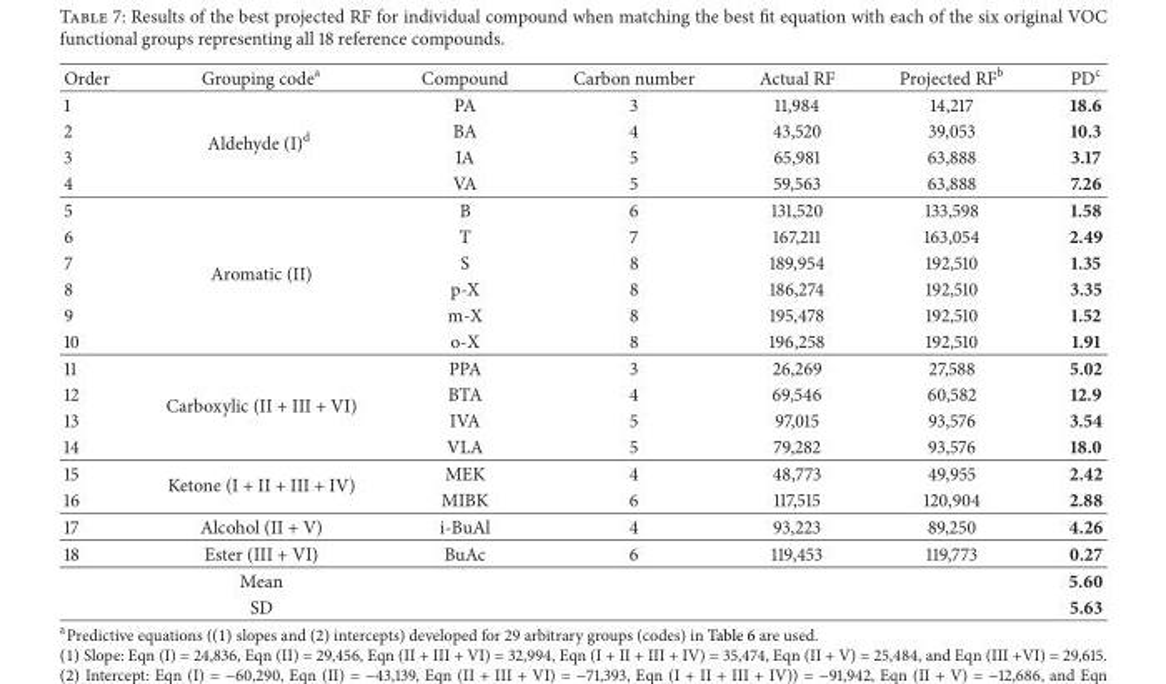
<table><thead><tr><td>Order</td><td>Grouping code<sup>a</sup></td><td>Compound</td><td>Carbon number</td><td>Actual RF</td><td>Projected RF<sup>b</sup></td><td>PD<sup>c</sup></td></tr></thead><tbody><tr><td>1</td><td rowspan="4">Aldehyde (I)<sup>d</sup></td><td>PA</td><td>3</td><td>11,984</td><td>14,217</td><td>18.6</td></tr><tr><td>2</td><td>BA</td><td>4</td><td>43,520</td><td>39,053</td><td>10.3</td></tr><tr><td>3</td><td>IA</td><td>5</td><td>65,981</td><td>63,888</td><td>3.17</td></tr><tr><td>4</td><td>VA</td><td>5</td><td>59,563</td><td>63,888</td><td>7.26</td></tr><tr><td>5</td><td rowspan="6">Aromatic (II)</td><td>B</td><td>6</td><td>131,520</td><td>133,598</td><td>1.58</td></tr><tr><td>6</td><td>T</td><td>7</td><td>167,211</td><td>163,054</td><td>2.49</td></tr><tr><td>7</td><td>S</td><td>8</td><td>189,954</td><td>192,510</td><td>1.35</td></tr><tr><td>8</td><td>p-X</td><td>8</td><td>186,274</td><td>192,510</td><td>3.35</td></tr><tr><td>9</td><td>m-X</td><td>8</td><td>195,478</td><td>192,510</td><td>1.52</td></tr><tr><td>10</td><td>o-X</td><td>8</td><td>196,258</td><td>192,510</td><td>1.91</td></tr><tr><td>11</td><td rowspan="4">Carboxylic (II + III + VI)</td><td>PPA</td><td>3</td><td>26,269</td><td>27,588</td><td>5.02</td></tr><tr><td>12</td><td>BTA</td><td>4</td><td>69,546</td><td>60,582</td><td>12.9</td></tr><tr><td>13</td><td>IVA</td><td>5</td><td>97,015</td><td>93,576</td><td>3.54</td></tr><tr><td>14</td><td>VLA</td><td>5</td><td>79,282</td><td>93,576</td><td>18.0</td></tr><tr><td>15</td><td rowspan="2">Ketone (I + II + III + IV)</td><td>MEK</td><td>4</td><td>48,773</td><td>49,955</td><td>2.42</td></tr><tr><td>16</td><td>MIBK</td><td>6</td><td>117,515</td><td>120,904</td><td>2.88</td></tr><tr><td>17</td><td>Alcohol (II + V)</td><td>i-BuAl</td><td>4</td><td>93,223</td><td>89,250</td><td>4.26</td></tr><tr><td rowspan="3">18</td><td>Ester (III + VI)</td><td>BuAc</td><td>6</td><td>119,453</td><td>119,773</td><td>0.27</td></tr><tr><td>Mean</td><td></td><td></td><td></td><td></td><td>5.60</td></tr><tr><td>SD</td><td></td><td></td><td></td><td></td><td>5.63</td></tr></tbody></table>